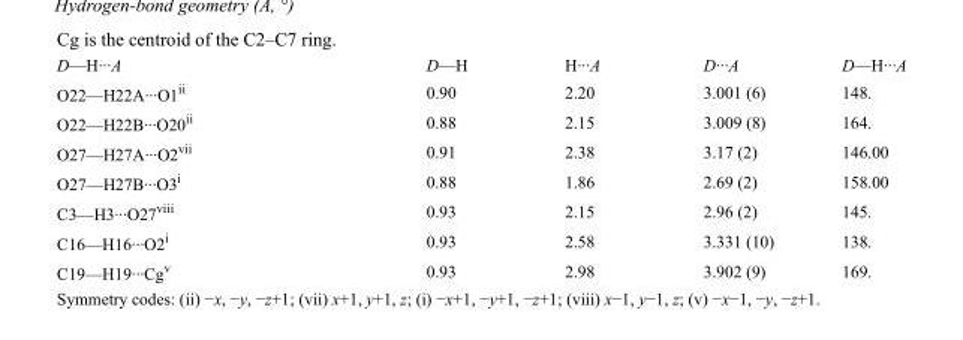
<table><tbody><tr><td>D—H···A</td><td>D—H</td><td>H···A</td><td>D···A</td><td>D—H···A</td></tr><tr><td>O22—H22A···O1<sup>ii</sup></td><td>0.90</td><td>2.20</td><td>3.001 (6)</td><td>148.</td></tr><tr><td>O22—H22B···O20<sup>ii</sup></td><td>0.88</td><td>2.15</td><td>3.009 (8)</td><td>164.</td></tr><tr><td>O27—H27A···O2<sup>vii</sup></td><td>0.91</td><td>2.38</td><td>3.17 (2)</td><td>146.00</td></tr><tr><td>O27—H27B···O3<sup>i</sup></td><td>0.88</td><td>1.86</td><td>2.69 (2)</td><td>158.00</td></tr><tr><td>C3—H3···O27<sup>viii</sup></td><td>0.93</td><td>2.15</td><td>2.96 (2)</td><td>145.</td></tr><tr><td>C16—H16···O2<sup>i</sup></td><td>0.93</td><td>2.58</td><td>3.331 (10)</td><td>138.</td></tr><tr><td>C19—H19···Cg<sup>v</sup></td><td>0.93</td><td>2.98</td><td>3.902 (9)</td><td>169.</td></tr></tbody></table>